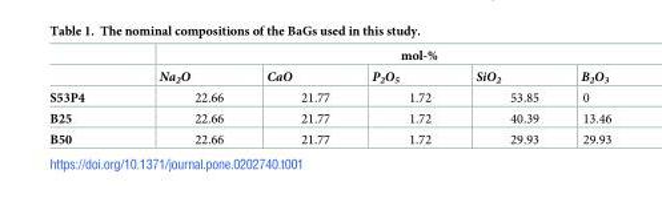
<table><thead><tr><td rowspan="2"></td><td colspan="5">mol-%</td></tr><tr><td>Na<sub>2</sub>O</td><td>CaO</td><td>P<sub>2</sub>O<sub>5</sub></td><td>SiO<sub>2</sub></td><td>B<sub>2</sub>O<sub>3</sub></td></tr></thead><tbody><tr><td>S53P4</td><td>22.66</td><td>21.77</td><td>1.72</td><td>53.85</td><td>0</td></tr><tr><td>B25</td><td>22.66</td><td>21.77</td><td>1.72</td><td>40.39</td><td>13.46</td></tr><tr><td>B50</td><td>22.66</td><td>21.77</td><td>1.72</td><td>29.93</td><td>29.93</td></tr></tbody></table>